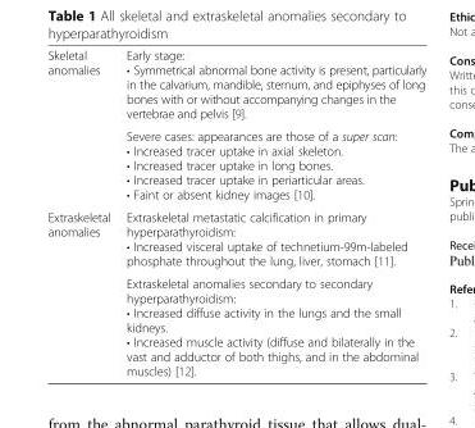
<table><tbody><tr><td rowspan="2">Skeletal anomalies</td><td>Early stage: • Symmetrical abnormal bone activity is present, particularly in the calvarium, mandible, sternum, and epiphyses of long bones with or without accompanying changes in the vertebrae and pelvis [9].</td></tr><tr><td>Severe cases: appearances are those of a super scan: • Increased tracer uptake in axial skeleton. • Increased tracer uptake in long bones. • Increased tracer uptake in periarticular areas. • Faint or absent kidney images [10].</td></tr><tr><td rowspan="2">Extraskeletal anomalies</td><td>Extraskeletal metastatic calcification in primary hyperparathyroidism: • Increased visceral uptake of technetium-99m-labeled phosphate throughout the lung, liver, stomach [11].</td></tr><tr><td>Extraskeletal anomalies secondary to secondary hyperparathyroidism: • Increased diffuse activity in the lungs and the small kidneys. • Increased muscle activity (diffuse and bilaterally in the vast and adductor of both thighs, and in the abdominal muscles) [12].</td></tr></tbody></table>